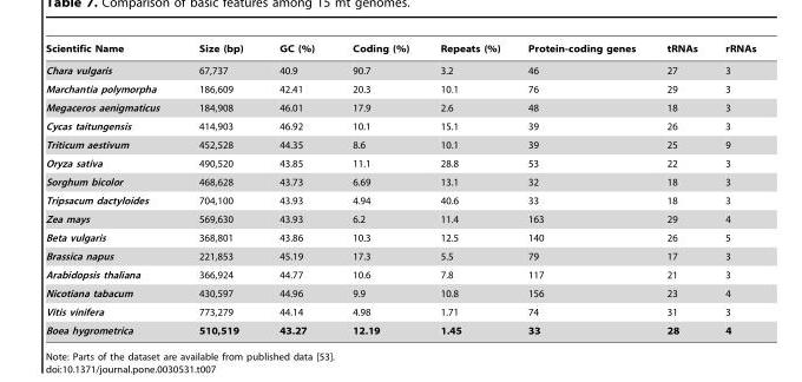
<table><thead><tr><td>Scientific Name</td><td>Size (bp)</td><td>GC (%)</td><td>Coding (%)</td><td>Repeats (%)</td><td>Protein-coding genes</td><td>tRNAs</td><td>rRNAs</td></tr></thead><tbody><tr><td>Chara vulgaris</td><td>67,737</td><td>40.9</td><td>90.7</td><td>3.2</td><td>46</td><td>27</td><td>3</td></tr><tr><td>Marchantia polymorpha</td><td>186,609</td><td>42.41</td><td>20.3</td><td>10.1</td><td>76</td><td>29</td><td>3</td></tr><tr><td>Megaceros aenigmaticus</td><td>184,908</td><td>46.01</td><td>17.9</td><td>2.6</td><td>48</td><td>18</td><td>3</td></tr><tr><td>Cycas taitungensis</td><td>414,903</td><td>46.92</td><td>10.1</td><td>15.1</td><td>39</td><td>26</td><td>3</td></tr><tr><td>Triticum aestivum</td><td>452,528</td><td>44.35</td><td>8.6</td><td>10.1</td><td>39</td><td>25</td><td>9</td></tr><tr><td>Oryza sativa</td><td>490,520</td><td>43.85</td><td>11.1</td><td>28.8</td><td>53</td><td>22</td><td>3</td></tr><tr><td>Sorghum bicolor</td><td>468,628</td><td>43.73</td><td>6.69</td><td>13.1</td><td>32</td><td>18</td><td>3</td></tr><tr><td>Tripsacum dactyloides</td><td>704,100</td><td>43.93</td><td>4.94</td><td>40.6</td><td>33</td><td>18</td><td>3</td></tr><tr><td>Zea mays</td><td>569,630</td><td>43.93</td><td>6.2</td><td>11.4</td><td>163</td><td>29</td><td>4</td></tr><tr><td>Beta vulgaris</td><td>368,801</td><td>43.86</td><td>10.3</td><td>12.5</td><td>140</td><td>26</td><td>5</td></tr><tr><td>Brassica napus</td><td>221,853</td><td>45.19</td><td>17.3</td><td>5.5</td><td>79</td><td>17</td><td>3</td></tr><tr><td>Arabidopsis thaliana</td><td>366,924</td><td>44.77</td><td>10.6</td><td>7.8</td><td>117</td><td>21</td><td>3</td></tr><tr><td>Nicotiana tabacum</td><td>430,597</td><td>44.96</td><td>9.9</td><td>10.8</td><td>156</td><td>23</td><td>4</td></tr><tr><td>Vitis vinifera</td><td>773,279</td><td>44.14</td><td>4.98</td><td>1.71</td><td>74</td><td>31</td><td>3</td></tr><tr><td>Boea hygrometrica</td><td>510,519</td><td>43.27</td><td>12.19</td><td>1.45</td><td>33</td><td>28</td><td>4</td></tr></tbody></table>